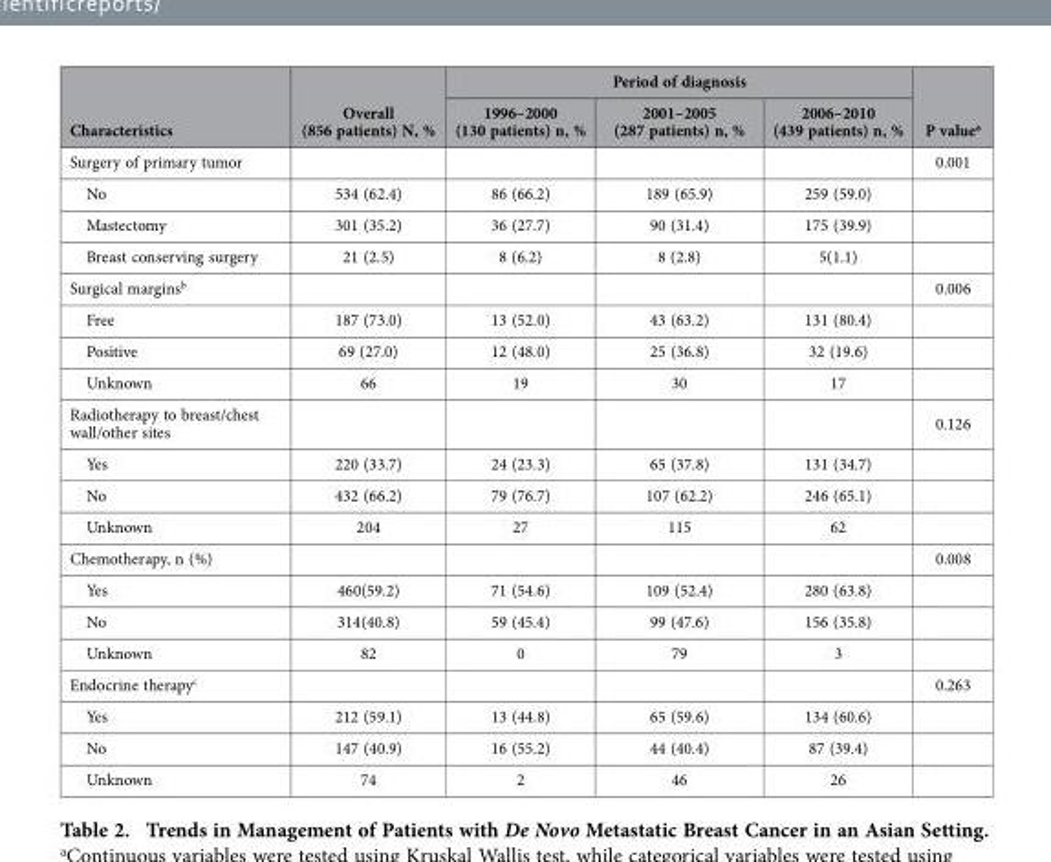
<table><thead><tr><td rowspan="2">Characteristics</td><td rowspan="2">Overall (856 patients) N, %</td><td colspan="3">Period of diagnosis</td><td rowspan="2">P value<sup>a</sup></td></tr><tr><td>1996–2000 (130 patients) n, %</td><td>2001–2005 (287 patients) n, %</td><td>2006–2010 (439 patients) n, %</td></tr></thead><tbody><tr><td>Surgery of primary tumor</td><td></td><td></td><td></td><td></td><td>0.001</td></tr><tr><td>No</td><td>534 (62.4)</td><td>86 (66.2)</td><td>189 (65.9)</td><td>259 (59.0)</td><td></td></tr><tr><td>Mastectomy</td><td>301 (35.2)</td><td>36 (27.7)</td><td>90 (31.4)</td><td>175 (39.9)</td><td></td></tr><tr><td>Breast conserving surgery</td><td>21 (2.5)</td><td>8 (6.2)</td><td>8 (2.8)</td><td>5(1.1)</td><td></td></tr><tr><td>Surgical margins<sup>b</sup></td><td></td><td></td><td></td><td></td><td>0.006</td></tr><tr><td>Free</td><td>187 (73.0)</td><td>13 (52.0)</td><td>43 (63.2)</td><td>131 (80.4)</td><td></td></tr><tr><td>Positive</td><td>69 (27.0)</td><td>12 (48.0)</td><td>25 (36.8)</td><td>32 (19.6)</td><td></td></tr><tr><td>Unknown</td><td>66</td><td>19</td><td>30</td><td>17</td><td></td></tr><tr><td>Radiotherapy to breast/chest wall/other sites</td><td></td><td></td><td></td><td></td><td>0.126</td></tr><tr><td>Yes</td><td>220 (33.7)</td><td>24 (23.3)</td><td>65 (37.8)</td><td>131 (34.7)</td><td></td></tr><tr><td>No</td><td>432 (66.2)</td><td>79 (76.7)</td><td>107 (62.2)</td><td>246 (65.1)</td><td></td></tr><tr><td>Unknown</td><td>204</td><td>27</td><td>115</td><td>62</td><td></td></tr><tr><td>Chemotherapy, n (%)</td><td></td><td></td><td></td><td></td><td>0.008</td></tr><tr><td>Yes</td><td>460(59.2)</td><td>71 (54.6)</td><td>109 (52.4)</td><td>280 (63.8)</td><td></td></tr><tr><td>No</td><td>314(40.8)</td><td>59 (45.4)</td><td>99 (47.6)</td><td>156 (35.8)</td><td></td></tr><tr><td>Unknown</td><td>82</td><td>0</td><td>79</td><td>3</td><td></td></tr><tr><td>Endocrine therapy<sup>c</sup></td><td></td><td></td><td></td><td></td><td>0.263</td></tr><tr><td>Yes</td><td>212 (59.1)</td><td>13 (44.8)</td><td>65 (59.6)</td><td>134 (60.6)</td><td></td></tr><tr><td>No</td><td>147 (40.9)</td><td>16 (55.2)</td><td>44 (40.4)</td><td>87 (39.4)</td><td></td></tr><tr><td>Unknown</td><td>74</td><td>2</td><td>46</td><td>26</td><td></td></tr></tbody></table>